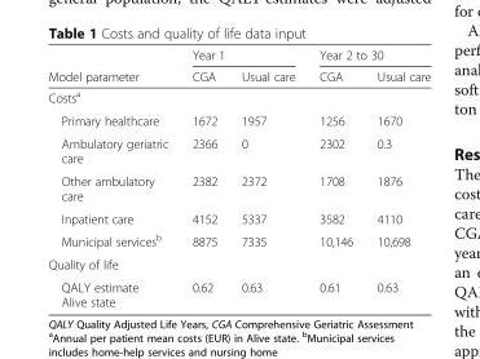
<table><thead><tr><td rowspan="2">Model parameter</td><td colspan="2">Year 1</td><td colspan="2">Year 2 to 30</td></tr><tr><td>CGA</td><td>Usual care</td><td>CGA</td><td>Usual care</td></tr></thead><tbody><tr><td colspan="5">Costs<sup>a</sup></td></tr><tr><td>Primary healthcare</td><td>1672</td><td>1957</td><td>1256</td><td>1670</td></tr><tr><td>Ambulatory geriatric care</td><td>2366</td><td>0</td><td>2302</td><td>0.3</td></tr><tr><td>Other ambulatory care</td><td>2382</td><td>2372</td><td>1708</td><td>1876</td></tr><tr><td>Inpatient care</td><td>4152</td><td>5337</td><td>3582</td><td>4110</td></tr><tr><td>Municipal services<sup>b</sup></td><td>8875</td><td>7335</td><td>10,146</td><td>10,698</td></tr><tr><td colspan="5">Quality of life</td></tr><tr><td>QALY estimate Alive state</td><td>0.62</td><td>0.63</td><td>0.61</td><td>0.63</td></tr></tbody></table>